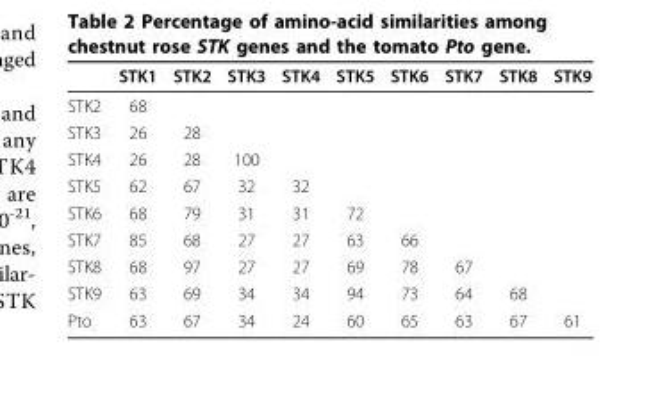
<table><thead><tr><td></td><td>STK1</td><td>STK2</td><td>STK3</td><td>STK4</td><td>STK5</td><td>STK6</td><td>STK7</td><td>STK8</td><td>STK9</td></tr></thead><tbody><tr><td>STK2</td><td>68</td><td></td><td></td><td></td><td></td><td></td><td></td><td></td><td></td></tr><tr><td>STK3</td><td>26</td><td>28</td><td></td><td></td><td></td><td></td><td></td><td></td><td></td></tr><tr><td>STK4</td><td>26</td><td>28</td><td>100</td><td></td><td></td><td></td><td></td><td></td><td></td></tr><tr><td>STK5</td><td>62</td><td>67</td><td>32</td><td>32</td><td></td><td></td><td></td><td></td><td></td></tr><tr><td>STK6</td><td>68</td><td>79</td><td>31</td><td>31</td><td>72</td><td></td><td></td><td></td><td></td></tr><tr><td>STK7</td><td>85</td><td>68</td><td>27</td><td>27</td><td>63</td><td>66</td><td></td><td></td><td></td></tr><tr><td>STK8</td><td>68</td><td>97</td><td>27</td><td>27</td><td>69</td><td>78</td><td>67</td><td></td><td></td></tr><tr><td>STK9</td><td>63</td><td>69</td><td>34</td><td>34</td><td>94</td><td>73</td><td>64</td><td>68</td><td></td></tr><tr><td>Pto</td><td>63</td><td>67</td><td>34</td><td>24</td><td>60</td><td>65</td><td>63</td><td>67</td><td>61</td></tr></tbody></table>